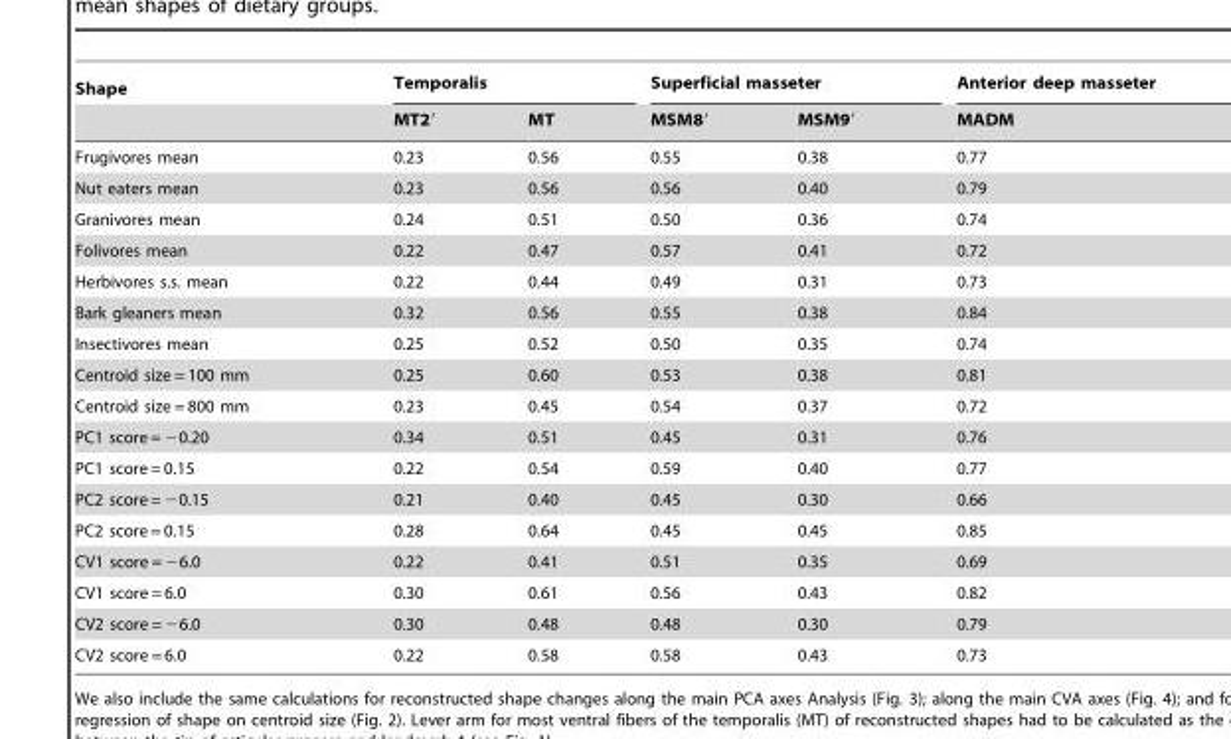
<table><thead><tr><td rowspan="2">Shape</td><td colspan="2">Temporalis</td><td colspan="2">Superficial masseter</td><td rowspan="2">Anterior deep masseter MADM</td></tr><tr><td>MT2′</td><td>MT</td><td>MSM8′</td><td>MSM9′</td></tr></thead><tbody><tr><td>Frugivores mean</td><td>0.23</td><td>0.56</td><td>0.55</td><td>0.38</td><td>0.77</td></tr><tr><td>Nut eaters mean</td><td>0.23</td><td>0.56</td><td>0.56</td><td>0.40</td><td>0.79</td></tr><tr><td>Granivores mean</td><td>0.24</td><td>0.51</td><td>0.50</td><td>0.36</td><td>0.74</td></tr><tr><td>Folivores mean</td><td>0.22</td><td>0.47</td><td>0.57</td><td>0.41</td><td>0.72</td></tr><tr><td>Herbivores s.s. mean</td><td>0.22</td><td>0.44</td><td>0.49</td><td>0.31</td><td>0.73</td></tr><tr><td>Bark gleaners mean</td><td>0.32</td><td>0.56</td><td>0.55</td><td>0.38</td><td>0.84</td></tr><tr><td>Insectivores mean</td><td>0.25</td><td>0.52</td><td>0.50</td><td>0.35</td><td>0.74</td></tr><tr><td>Centroid size = 100 mm</td><td>0.25</td><td>0.60</td><td>0.53</td><td>0.38</td><td>0.81</td></tr><tr><td>Centroid size = 800 mm</td><td>0.23</td><td>0.45</td><td>0.54</td><td>0.37</td><td>0.72</td></tr><tr><td>PC1 score = −0.20</td><td>0.34</td><td>0.51</td><td>0.45</td><td>0.31</td><td>0.76</td></tr><tr><td>PC1 score = 0.15</td><td>0.22</td><td>0.54</td><td>0.59</td><td>0.40</td><td>0.77</td></tr><tr><td>PC2 score = −0.15</td><td>0.21</td><td>0.40</td><td>0.45</td><td>0.30</td><td>0.66</td></tr><tr><td>PC2 score = 0.15</td><td>0.28</td><td>0.64</td><td>0.45</td><td>0.45</td><td>0.85</td></tr><tr><td>CV1 score = −6.0</td><td>0.22</td><td>0.41</td><td>0.51</td><td>0.35</td><td>0.69</td></tr><tr><td>CV1 score = 6.0</td><td>0.30</td><td>0.61</td><td>0.56</td><td>0.43</td><td>0.82</td></tr><tr><td>CV2 score = −6.0</td><td>0.30</td><td>0.48</td><td>0.48</td><td>0.30</td><td>0.79</td></tr><tr><td>CV2 score = 6.0</td><td>0.22</td><td>0.58</td><td>0.58</td><td>0.43</td><td>0.73</td></tr></tbody></table>